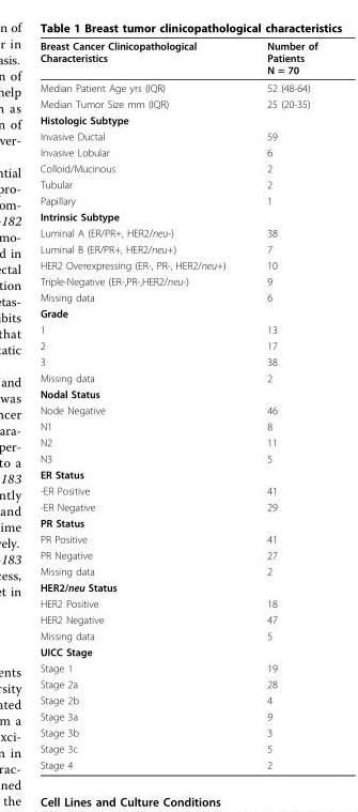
<table><thead><tr><td>Breast Cancer Clinicopathological Characteristics</td><td>Number of Patients N = 70</td></tr></thead><tbody><tr><td>Median Patient Age yrs (IQR)</td><td>52 (48-64)</td></tr><tr><td>Median Tumor Size mm (IQR)</td><td>25 (20-35)</td></tr><tr><td colspan="2">Histologic Subtype</td></tr><tr><td>Invasive Ductal</td><td>59</td></tr><tr><td>Invasive Lobular</td><td>6</td></tr><tr><td>Colloid/Mucinous</td><td>2</td></tr><tr><td>Tubular</td><td>2</td></tr><tr><td>Papillary</td><td>1</td></tr><tr><td colspan="2">Intrinsic Subtype</td></tr><tr><td>Luminal A (ER/PR+, HER2/neu-)</td><td>38</td></tr><tr><td>Luminal B (ER/PR+, HER2/neu+)</td><td>7</td></tr><tr><td>HER2 Overexpressing (ER-, PR-, HER2/neu+)</td><td>10</td></tr><tr><td>Triple-Negative (ER-,PR-,HER2/neu-)</td><td>9</td></tr><tr><td>Missing data</td><td>6</td></tr><tr><td colspan="2">Grade</td></tr><tr><td>1</td><td>13</td></tr><tr><td>2</td><td>17</td></tr><tr><td>3</td><td>38</td></tr><tr><td>Missing data</td><td>2</td></tr><tr><td colspan="2">Nodal Status</td></tr><tr><td>Node Negative</td><td>46</td></tr><tr><td>N1</td><td>8</td></tr><tr><td>N2</td><td>11</td></tr><tr><td>N3</td><td>5</td></tr><tr><td colspan="2">ER Status</td></tr><tr><td>-ER Positive</td><td>41</td></tr><tr><td>-ER Negative</td><td>29</td></tr><tr><td colspan="2">PR Status</td></tr><tr><td>PR Positive</td><td>41</td></tr><tr><td>PR Negative</td><td>27</td></tr><tr><td>Missing data</td><td>2</td></tr><tr><td colspan="2">HER2/neu Status</td></tr><tr><td>HER2 Positive</td><td>18</td></tr><tr><td>HER2 Negative</td><td>47</td></tr><tr><td>Missing data</td><td>5</td></tr><tr><td colspan="2">UICC Stage</td></tr><tr><td>Stage 1</td><td>19</td></tr><tr><td>Stage 2a</td><td>28</td></tr><tr><td>Stage 2b</td><td>4</td></tr><tr><td>Stage 3a</td><td>9</td></tr><tr><td>Stage 3b</td><td>3</td></tr><tr><td>Stage 3c</td><td>5</td></tr><tr><td>Stage 4</td><td>2</td></tr></tbody></table>